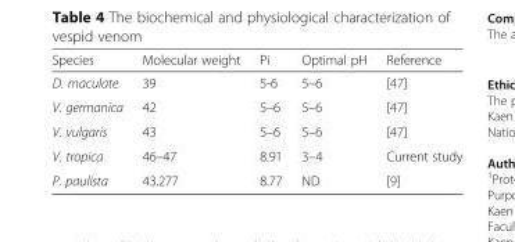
<table><thead><tr><td>Species</td><td>Molecular weight</td><td>Pi</td><td>Optimal pH</td><td>Reference</td></tr></thead><tbody><tr><td>D. maculate</td><td>39</td><td>5-6</td><td>5–6</td><td>[47]</td></tr><tr><td>V. germanica</td><td>42</td><td>5–6</td><td>5–6</td><td>[47]</td></tr><tr><td>V. vulgaris</td><td>43</td><td>5–6</td><td>5–6</td><td>[47]</td></tr><tr><td>V. tropica</td><td>46–47</td><td>8.91</td><td>3–4</td><td>Current study</td></tr><tr><td>P. paulista</td><td>43.277</td><td>8.77</td><td>ND</td><td>[9]</td></tr></tbody></table>